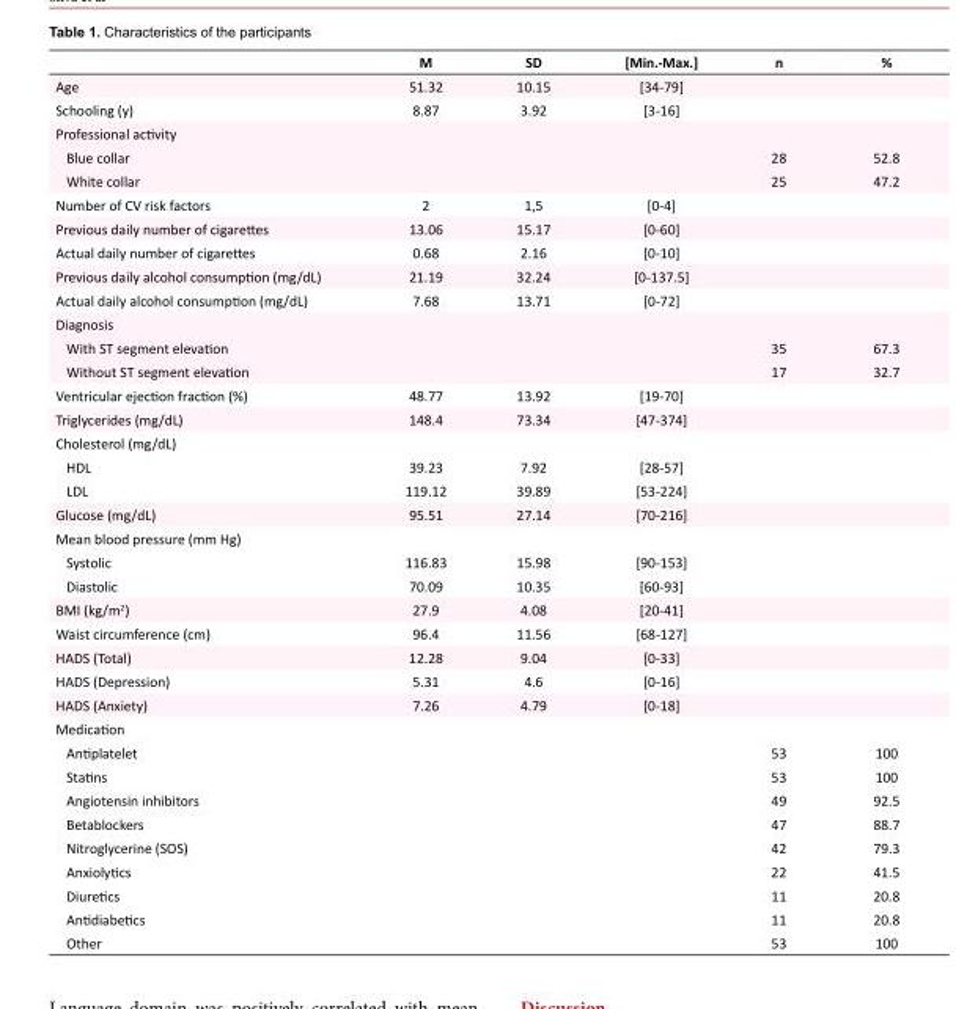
<table><thead><tr><td></td><td>M</td><td>SD</td><td>[Min.-Max.]</td><td>n</td><td>%</td></tr></thead><tbody><tr><td>Age</td><td>51.32</td><td>10.15</td><td>[34-79]</td><td></td><td></td></tr><tr><td>Schooling (y)</td><td>8.87</td><td>3.92</td><td>[3-16]</td><td></td><td></td></tr><tr><td colspan="6">Professional activity</td></tr><tr><td>Blue collar</td><td></td><td></td><td></td><td>28</td><td>52.8</td></tr><tr><td>White collar</td><td></td><td></td><td></td><td>25</td><td>47.2</td></tr><tr><td>Number of CV risk factors</td><td>2</td><td>1,5</td><td>[0-4]</td><td></td><td></td></tr><tr><td>Previous daily number of cigarettes</td><td>13.06</td><td>15.17</td><td>[0-60]</td><td></td><td></td></tr><tr><td>Actual daily number of cigarettes</td><td>0.68</td><td>2.16</td><td>[0-10]</td><td></td><td></td></tr><tr><td>Previous daily alcohol consumption (mg/dL)</td><td>21.19</td><td>32.24</td><td>[0-137.5]</td><td></td><td></td></tr><tr><td>Actual daily alcohol consumption (mg/dL)</td><td>7.68</td><td>13.71</td><td>[0-72]</td><td></td><td></td></tr><tr><td colspan="6">Diagnosis</td></tr><tr><td>With ST segment elevation</td><td></td><td></td><td></td><td>35</td><td>67.3</td></tr><tr><td>Without ST segment elevation</td><td></td><td></td><td></td><td>17</td><td>32.7</td></tr><tr><td>Ventricular ejection fraction (%)</td><td>48.77</td><td>13.92</td><td>[19-70]</td><td></td><td></td></tr><tr><td>Triglycerides (mg/dL)</td><td>148.4</td><td>73.34</td><td>[47-374]</td><td></td><td></td></tr><tr><td colspan="6">Cholesterol (mg/dL)</td></tr><tr><td>HDL</td><td>39.23</td><td>7.92</td><td>[28-57]</td><td></td><td></td></tr><tr><td>LDL</td><td>119.12</td><td>39.89</td><td>[53-224]</td><td></td><td></td></tr><tr><td>Glucose (mg/dL)</td><td>95.51</td><td>27.14</td><td>[70-216]</td><td></td><td></td></tr><tr><td colspan="6">Mean blood pressure (mm Hg)</td></tr><tr><td>Systolic</td><td>116.83</td><td>15.98</td><td>[90-153]</td><td></td><td></td></tr><tr><td>Diastolic</td><td>70.09</td><td>10.35</td><td>[60-93]</td><td></td><td></td></tr><tr><td>BMI (kg/m<sup>2</sup>)</td><td>27.9</td><td>4.08</td><td>[20-41]</td><td></td><td></td></tr><tr><td>Waist circumference (cm)</td><td>96.4</td><td>11.56</td><td>[68-127]</td><td></td><td></td></tr><tr><td>HADS (Total)</td><td>12.28</td><td>9.04</td><td>[0-33]</td><td></td><td></td></tr><tr><td>HADS (Depression)</td><td>5.31</td><td>4.6</td><td>[0-16]</td><td></td><td></td></tr><tr><td>HADS (Anxiety)</td><td>7.26</td><td>4.79</td><td>[0-18]</td><td></td><td></td></tr><tr><td colspan="6">Medication</td></tr><tr><td>Antiplatelet</td><td></td><td></td><td></td><td>53</td><td>100</td></tr><tr><td>Statins</td><td></td><td></td><td></td><td>53</td><td>100</td></tr><tr><td>Angiotensin inhibitors</td><td></td><td></td><td></td><td>49</td><td>92.5</td></tr><tr><td>Betablockers</td><td></td><td></td><td></td><td>47</td><td>88.7</td></tr><tr><td>Nitroglycerine (SOS)</td><td></td><td></td><td></td><td>42</td><td>79.3</td></tr><tr><td>Anxiolytics</td><td></td><td></td><td></td><td>22</td><td>41.5</td></tr><tr><td>Diuretics</td><td></td><td></td><td></td><td>11</td><td>20.8</td></tr><tr><td>Antidiabetics</td><td></td><td></td><td></td><td>11</td><td>20.8</td></tr><tr><td>Other</td><td></td><td></td><td></td><td>53</td><td>100</td></tr></tbody></table>